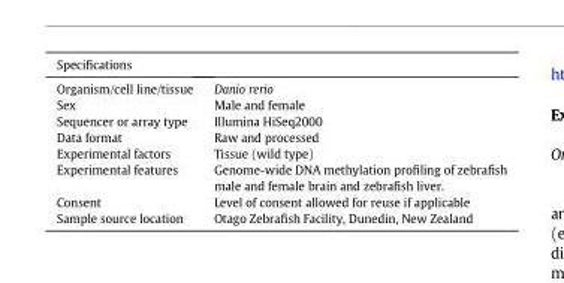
<table><thead><tr><td>Specifications</td><td></td></tr></thead><tbody><tr><td>Organism/cell line/tissue</td><td>Danio rerio</td></tr><tr><td>Sex</td><td>Male and female</td></tr><tr><td>Sequencer or array type</td><td>Illumina HiSeq2000</td></tr><tr><td>Data format</td><td>Raw and processed</td></tr><tr><td>Experimental factors</td><td>Tissue (wild type)</td></tr><tr><td>Experimental features</td><td>Genome-wide DNA methylation profiling of zebrafish male and female brain and zebrafish liver.</td></tr><tr><td>Consent</td><td>Level of consent allowed for reuse if applicable</td></tr><tr><td>Sample source location</td><td>Otago Zebrafish Facility, Dunedin, New Zealand</td></tr></tbody></table>